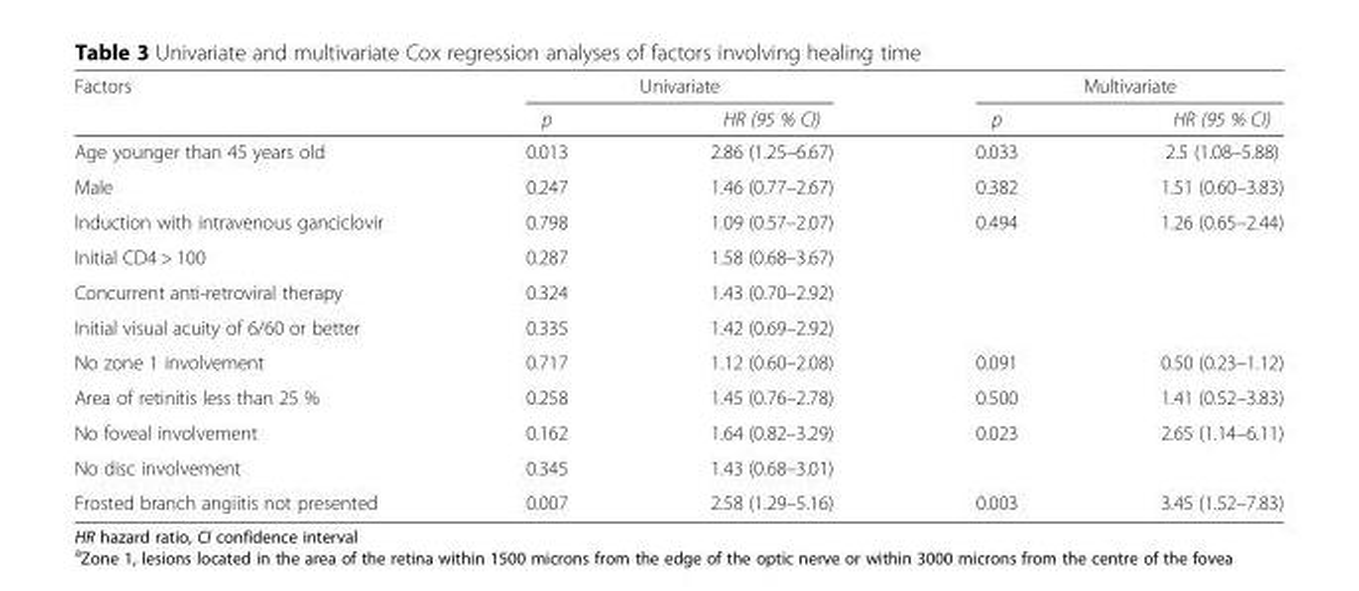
<table><thead><tr><td rowspan="2">Factors</td><td colspan="2">Univariate</td><td colspan="2">Multivariate</td></tr><tr><td>p</td><td>HR (95 % CI)</td><td>p</td><td>HR (95 % CI)</td></tr></thead><tbody><tr><td>Age younger than 45 years old</td><td>0.013</td><td>2.86 (1.25–6.67)</td><td>0.033</td><td>2.5 (1.08–5.88)</td></tr><tr><td>Male</td><td>0.247</td><td>1.46 (0.77–2.67)</td><td>0.382</td><td>1.51 (0.60–3.83)</td></tr><tr><td>Induction with intravenous ganciclovir</td><td>0.798</td><td>1.09 (0.57–2.07)</td><td>0.494</td><td>1.26 (0.65–2.44)</td></tr><tr><td>Initial CD4 &gt; 100</td><td>0.287</td><td>1.58 (0.68–3.67)</td><td></td><td></td></tr><tr><td>Concurrent anti-retroviral therapy</td><td>0.324</td><td>1.43 (0.70–2.92)</td><td></td><td></td></tr><tr><td>Initial visual acuity of 6/60 or better</td><td>0.335</td><td>1.42 (0.69–2.92)</td><td></td><td></td></tr><tr><td>No zone 1 involvement</td><td>0.717</td><td>1.12 (0.60–2.08)</td><td>0.091</td><td>0.50 (0.23–1.12)</td></tr><tr><td>Area of retinitis less than 25 %</td><td>0.258</td><td>1.45 (0.76–2.78)</td><td>0.500</td><td>1.41 (0.52–3.83)</td></tr><tr><td>No foveal involvement</td><td>0.162</td><td>1.64 (0.82–3.29)</td><td>0.023</td><td>2.65 (1.14–6.11)</td></tr><tr><td>No disc involvement</td><td>0.345</td><td>1.43 (0.68–3.01)</td><td></td><td></td></tr><tr><td>Frosted branch angiitis not presented</td><td>0.007</td><td>2.58 (1.29–5.16)</td><td>0.003</td><td>3.45 (1.52–7.83)</td></tr></tbody></table>